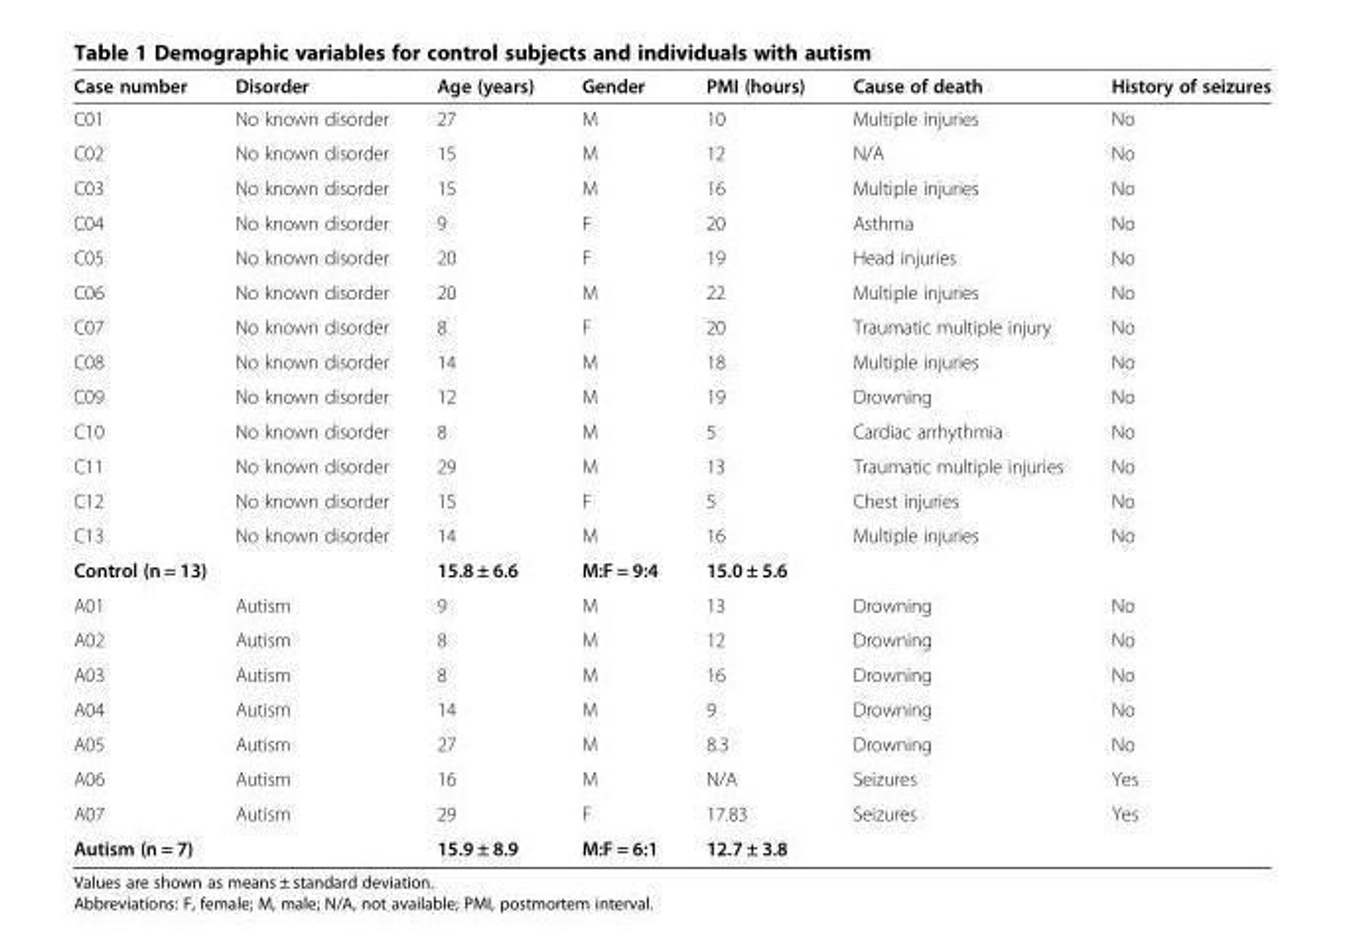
<table><thead><tr><td>Case number</td><td>Disorder</td><td>Age (years)</td><td>Gender</td><td>PMI (hours)</td><td>Cause of death</td><td>History of seizures</td></tr></thead><tbody><tr><td>C01</td><td>No known disorder</td><td>27</td><td>M</td><td>10</td><td>Multiple injuries</td><td>No</td></tr><tr><td>C02</td><td>No known disorder</td><td>15</td><td>M</td><td>12</td><td>N/A</td><td>No</td></tr><tr><td>C03</td><td>No known disorder</td><td>15</td><td>M</td><td>16</td><td>Multiple injuries</td><td>No</td></tr><tr><td>C04</td><td>No known disorder</td><td>9</td><td>F</td><td>20</td><td>Asthma</td><td>No</td></tr><tr><td>C05</td><td>No known disorder</td><td>20</td><td>F</td><td>19</td><td>Head injuries</td><td>No</td></tr><tr><td>C06</td><td>No known disorder</td><td>20</td><td>M</td><td>22</td><td>Multiple injuries</td><td>No</td></tr><tr><td>C07</td><td>No known disorder</td><td>8</td><td>F</td><td>20</td><td>Traumatic multiple injury</td><td>No</td></tr><tr><td>C08</td><td>No known disorder</td><td>14</td><td>M</td><td>18</td><td>Multiple injuries</td><td>No</td></tr><tr><td>C09</td><td>No known disorder</td><td>12</td><td>M</td><td>19</td><td>Drowning</td><td>No</td></tr><tr><td>C10</td><td>No known disorder</td><td>8</td><td>M</td><td>5</td><td>Cardiac arrhythmia</td><td>No</td></tr><tr><td>C11</td><td>No known disorder</td><td>29</td><td>M</td><td>13</td><td>Traumatic multiple injuries</td><td>No</td></tr><tr><td>C12</td><td>No known disorder</td><td>15</td><td>F</td><td>5</td><td>Chest injuries</td><td>No</td></tr><tr><td>C13</td><td>No known disorder</td><td>14</td><td>M</td><td>16</td><td>Multiple injuries</td><td>No</td></tr><tr><td colspan="2">Control (n = 13)</td><td>15.8 ± 6.6</td><td>M:F = 9:4</td><td>15.0 ± 5.6</td><td></td><td></td></tr><tr><td>A01</td><td>Autism</td><td>9</td><td>M</td><td>13</td><td>Drowning</td><td>No</td></tr><tr><td>A02</td><td>Autism</td><td>8</td><td>M</td><td>12</td><td>Drowning</td><td>No</td></tr><tr><td>A03</td><td>Autism</td><td>8</td><td>M</td><td>16</td><td>Drowning</td><td>No</td></tr><tr><td>A04</td><td>Autism</td><td>14</td><td>M</td><td>9</td><td>Drowning</td><td>No</td></tr><tr><td>A05</td><td>Autism</td><td>27</td><td>M</td><td>8.3</td><td>Drowning</td><td>No</td></tr><tr><td>A06</td><td>Autism</td><td>16</td><td>M</td><td>N/A</td><td>Seizures</td><td>Yes</td></tr><tr><td>A07</td><td>Autism</td><td>29</td><td>F</td><td>17.83</td><td>Seizures</td><td>Yes</td></tr><tr><td colspan="2">Autism (n = 7)</td><td>15.9 ± 8.9</td><td>M:F = 6:1</td><td>12.7 ± 3.8</td><td></td><td></td></tr></tbody></table>